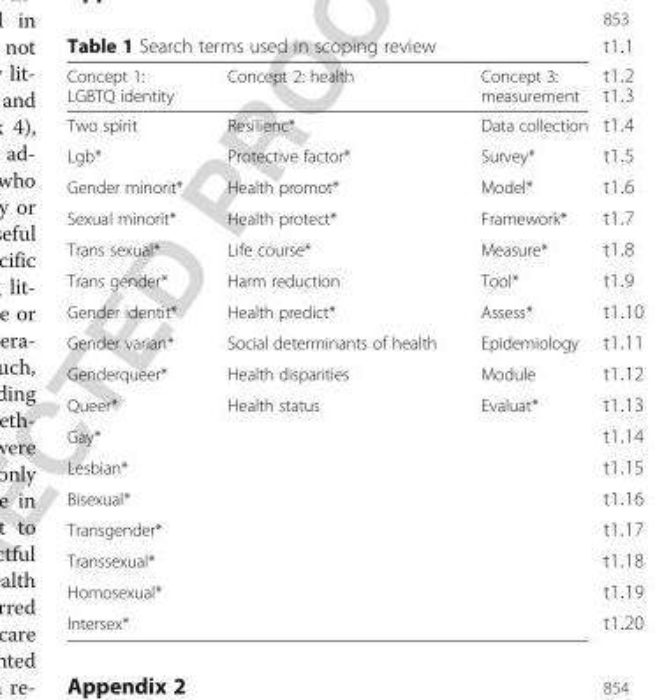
<table><thead><tr><td>Concept 1: LGBTQ identity</td><td>Concept 2: health</td><td>Concept 3: measurement</td></tr></thead><tbody><tr><td>Two spirit</td><td>Resilienc*</td><td>Data collection</td></tr><tr><td>Lgb*</td><td>Protective factor*</td><td>Survey*</td></tr><tr><td>Gender minorit*</td><td>Health promot*</td><td>Model*</td></tr><tr><td>Sexual minorit*</td><td>Health protect*</td><td>Framework*</td></tr><tr><td>Trans sexual*</td><td>Life course*</td><td>Measure*</td></tr><tr><td>Trans gender*</td><td>Harm reduction</td><td>Tool*</td></tr><tr><td>Gender identit*</td><td>Health predict*</td><td>Assess*</td></tr><tr><td>Gender varian*</td><td>Social determinants of health</td><td>Epidemiology</td></tr><tr><td>Genderqueer*</td><td>Health disparities</td><td>Module</td></tr><tr><td>Queer*</td><td>Health status</td><td>Evaluat*</td></tr><tr><td colspan="3">Gay*</td></tr><tr><td colspan="3">Lesbian*</td></tr><tr><td colspan="3">Bisexual*</td></tr><tr><td colspan="3">Transgender*</td></tr><tr><td colspan="3">Transsexual*</td></tr><tr><td colspan="3">Homosexual*</td></tr><tr><td>Intersex*</td><td></td><td></td></tr></tbody></table>